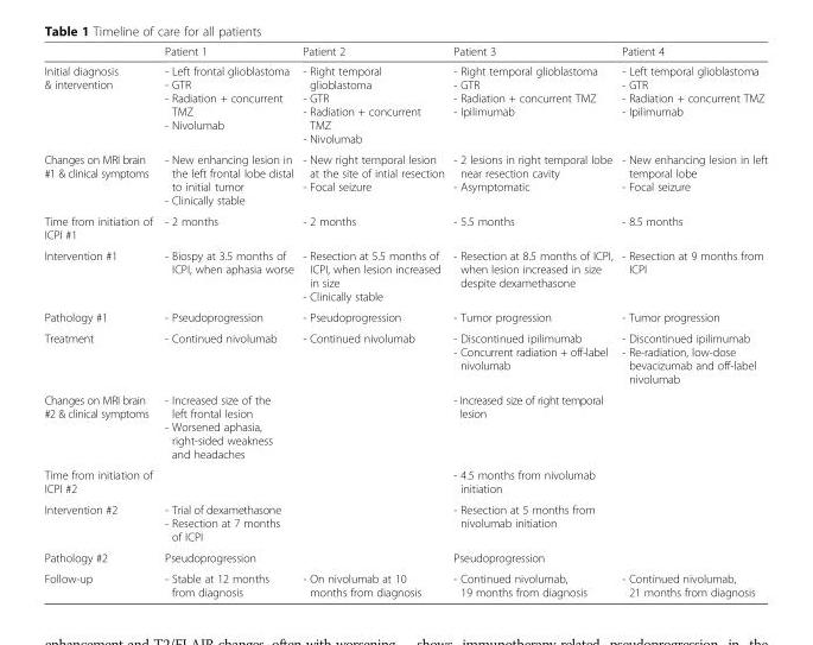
<table><thead><tr><td></td><td>Patient 1</td><td>Patient 2</td><td>Patient 3</td><td>Patient 4</td></tr></thead><tbody><tr><td>Initial diagnosis &amp; intervention</td><td>- Left frontal glioblastoma - GTR - Radiation + concurrent TMZ - Nivolumab</td><td>- Right temporal glioblastoma - GTR - Radiation + concurrent TMZ - Nivolumab</td><td>- Right temporal glioblastoma - GTR - Radiation + concurrent TMZ - Ipilimumab</td><td>- Left temporal glioblastoma - GTR - Radiation + concurrent TMZ - Ipilimumab</td></tr><tr><td>Changes on MRI brain #1 &amp; clinical symptoms</td><td>- New enhancing lesion in the left frontal lobe distal to initial tumor - Clinically stable</td><td>- New right temporal lesion at the site of intial resection - Focal seizure</td><td>- 2 lesions in right temporal lobe near resection cavity - Asymptomatic</td><td>- New enhancing lesion in left temporal lobe - Focal seizure</td></tr><tr><td>Time from initiation of ICPI #1</td><td>- 2 months</td><td>- 2 months</td><td>- 5.5 months</td><td>- 8.5 months</td></tr><tr><td>Intervention #1</td><td>- Biospy at 3.5 months of ICPI, when aphasia worse</td><td>- Resection at 5.5 months of ICPI, when lesion increased in size - Clinically stable</td><td>- Resection at 8.5 months of ICPI, when lesion increased in size despite dexamethasone</td><td>- Resection at 9 months from ICPI</td></tr><tr><td>Pathology #1</td><td>- Pseudoprogression</td><td>- Pseudoprogression</td><td>- Tumor progression</td><td>- Tumor progression</td></tr><tr><td>Treatment</td><td>- Continued nivolumab</td><td>- Continued nivolumab</td><td>- Discontinued ipilimumab - Concurrent radiation + off-label nivolumab</td><td>- Discontinued ipilimumab - Re-radiation, low-dose bevacizumab and off-label nivolumab</td></tr><tr><td>Changes on MRI brain #2 &amp; clinical symptoms</td><td>- Increased size of the left frontal lesion - Worsened aphasia, right-sided weakness and headaches</td><td></td><td>- Increased size of right temporal lesion</td><td></td></tr><tr><td>Time from initiation of ICPI #2</td><td></td><td></td><td>- 4.5 months from nivolumab initiation</td><td></td></tr><tr><td>Intervention #2</td><td>- Trial of dexamethasone - Resection at 7 months of ICPI</td><td></td><td>- Resection at 5 months from nivolumab initiation</td><td></td></tr><tr><td>Pathology #2</td><td>Pseudoprogression</td><td></td><td>Pseudoprogression</td><td></td></tr><tr><td>Follow-up</td><td>- Stable at 12 months from diagnosis</td><td>- On nivolumab at 10 months from diagnosis</td><td>- Continued nivolumab, 19 months from diagnosis</td><td>- Continued nivolumab, 21 months from diagnosis</td></tr></tbody></table>